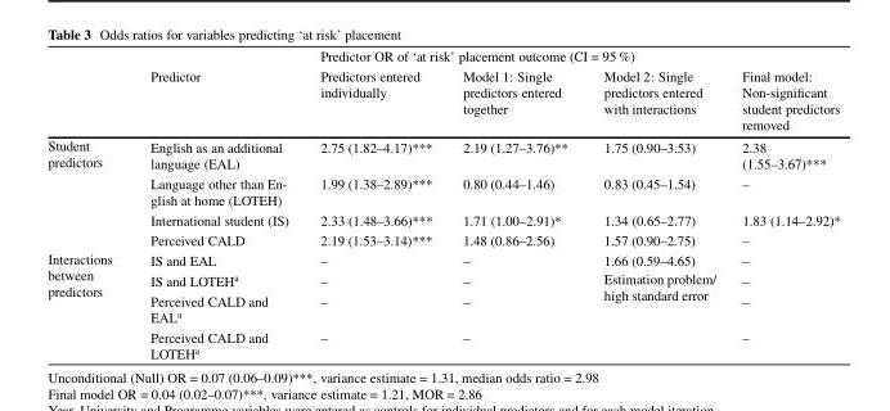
<table><thead><tr><td rowspan="2"></td><td rowspan="2">Predictor</td><td colspan="4">Predictor OR of ‘at risk’ placement outcome (CI = 95 %)</td></tr><tr><td>Predictors entered individually</td><td>Model 1: Single predictors entered together</td><td>Model 2: Single predictors entered with interactions</td><td>Final model: Non-significant student predictors removed</td></tr></thead><tbody><tr><td rowspan="4">Student predictors</td><td>English as an additional language (EAL)</td><td>2.75 (1.82–4.17)***</td><td>2.19 (1.27–3.76)**</td><td>1.75 (0.90–3.53)</td><td>2.38 (1.55–3.67)***</td></tr><tr><td>Language other than En- glish at home (LOTEH)</td><td>1.99 (1.38–2.89)***</td><td>0.80 (0.44–1.46)</td><td>0.83 (0.45–1.54)</td><td>–</td></tr><tr><td>International student (IS)</td><td>2.33 (1.48–3.66)***</td><td>1.71 (1.00–2.91)*</td><td>1.34 (0.65–2.77)</td><td>1.83 (1.14–2.92)*</td></tr><tr><td>Perceived CALD</td><td>2.19 (1.53–3.14)***</td><td>1.48 (0.86–2.56)</td><td>1.57 (0.90–2.75)</td><td>–</td></tr><tr><td rowspan="4">Interactions between predictors</td><td>IS and EAL</td><td>–</td><td>–</td><td>1.66 (0.59–4.65)</td><td>–</td></tr><tr><td>IS and LOTEH<sup>a</sup></td><td>–</td><td>–</td><td rowspan="3">Estimation problem/ high standard error</td><td>–</td></tr><tr><td>Perceived CALD and EAL<sup>a</sup></td><td>–</td><td>–</td><td>–</td></tr><tr><td>Perceived CALD and LOTEH<sup>a</sup></td><td>–</td><td>–</td><td>–</td></tr></tbody></table>